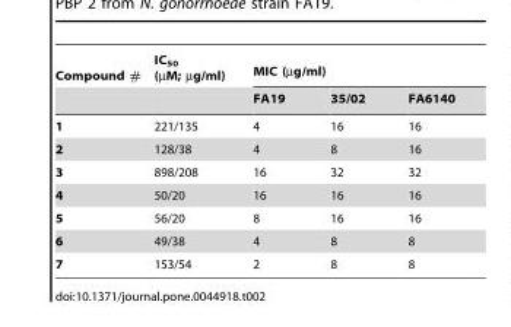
<table><thead><tr><td rowspan="2">Compound #</td><td rowspan="2">IC<sub>50</sub> (µM; µg/ml)</td><td colspan="3">MIC (µg/ml)</td></tr><tr><td>FA19</td><td>35/02</td><td>FA6140</td></tr></thead><tbody><tr><td>1</td><td>221/135</td><td>4</td><td>16</td><td>16</td></tr><tr><td>2</td><td>128/38</td><td>4</td><td>8</td><td>16</td></tr><tr><td>3</td><td>898/208</td><td>16</td><td>32</td><td>32</td></tr><tr><td>4</td><td>50/20</td><td>16</td><td>16</td><td>16</td></tr><tr><td>5</td><td>56/20</td><td>8</td><td>16</td><td>16</td></tr><tr><td>6</td><td>49/38</td><td>4</td><td>8</td><td>8</td></tr><tr><td>7</td><td>153/54</td><td>2</td><td>8</td><td>8</td></tr></tbody></table>